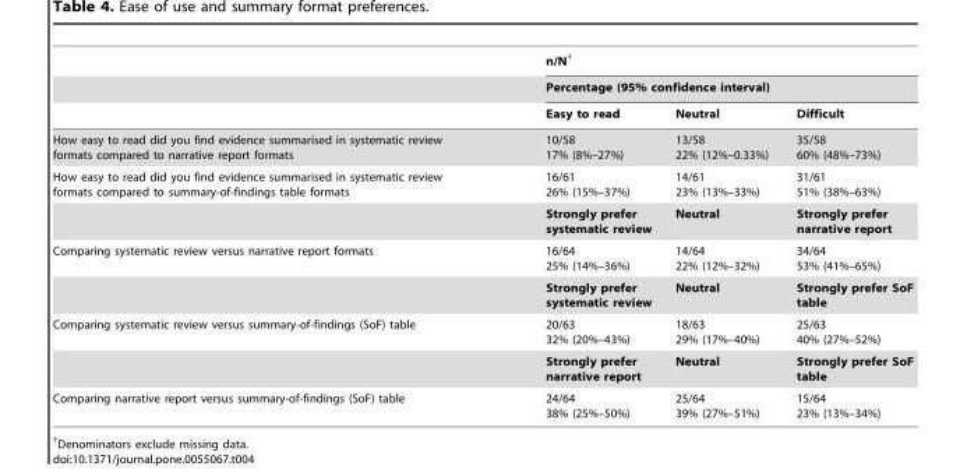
<table><thead><tr><td rowspan="3"></td><td rowspan="2" colspan="3">n/N† Percentage (95% confidence interval)</td></tr><tr></tr><tr><td>Easy to read</td><td>Neutral</td><td>Difficult</td></tr></thead><tbody><tr><td>How easy to read did you find evidence summarised in systematic review formats compared to narrative report formats</td><td>10/58 17% (8%–27%)</td><td>13/58 22% (12%–0.33%)</td><td>35/58 60% (48%–73%)</td></tr><tr><td rowspan="2">How easy to read did you find evidence summarised in systematic review formats compared to summary-of-findings table formats</td><td>16/61 26% (15%–37%)</td><td>14/61 23% (13%–33%)</td><td>31/61 51% (38%–63%)</td></tr><tr><td>Strongly prefer systematic review</td><td>Neutral</td><td>Strongly prefer narrative report</td></tr><tr><td rowspan="2">Comparing systematic review versus narrative report formats</td><td>16/64 25% (14%–36%)</td><td>14/64 22% (12%–32%)</td><td>34/64 53% (41%–65%)</td></tr><tr><td>Strongly prefer systematic review</td><td>Neutral</td><td>Strongly prefer SoF table</td></tr><tr><td rowspan="2">Comparing systematic review versus summary-of-findings (SoF) table</td><td>20/63 32% (20%–43%)</td><td>18/63 29% (17%–40%)</td><td>25/63 40% (27%–52%)</td></tr><tr><td>Strongly prefer narrative report</td><td>Neutral</td><td>Strongly prefer SoF table</td></tr><tr><td>Comparing narrative report versus summary-of-findings (SoF) table</td><td>24/64 38% (25%–50%)</td><td>25/64 39% (27%–51%)</td><td>15/64 23% (13%–34%)</td></tr></tbody></table>